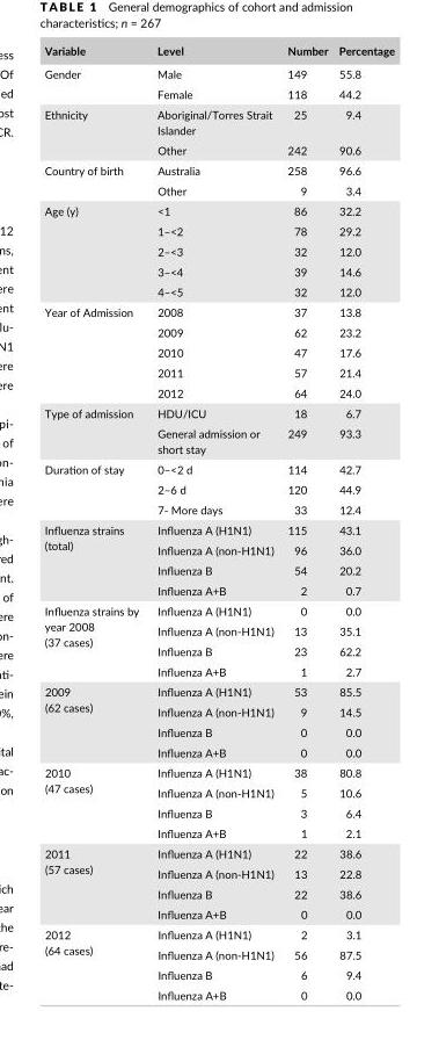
<table><thead><tr><td>Variable</td><td>Level</td><td>Number</td><td>Percentage</td></tr></thead><tbody><tr><td rowspan="2">Gender</td><td>Male</td><td>149</td><td>55.8</td></tr><tr><td>Female</td><td>118</td><td>44.2</td></tr><tr><td rowspan="2">Ethnicity</td><td>Aboriginal/Torres Strait Islander</td><td>25</td><td>9.4</td></tr><tr><td>Other</td><td>242</td><td>90.6</td></tr><tr><td rowspan="2">Country of birth</td><td>Australia</td><td>258</td><td>96.6</td></tr><tr><td>Other</td><td>9</td><td>3.4</td></tr><tr><td rowspan="5">Age (y)</td><td>&lt;1</td><td>86</td><td>32.2</td></tr><tr><td>1–&lt;2</td><td>78</td><td>29.2</td></tr><tr><td>2–&lt;3</td><td>32</td><td>12.0</td></tr><tr><td>3–&lt;4</td><td>39</td><td>14.6</td></tr><tr><td>4–&lt;5</td><td>32</td><td>12.0</td></tr><tr><td rowspan="5">Year of Admission</td><td>2008</td><td>37</td><td>13.8</td></tr><tr><td>2009</td><td>62</td><td>23.2</td></tr><tr><td>2010</td><td>47</td><td>17.6</td></tr><tr><td>2011</td><td>57</td><td>21.4</td></tr><tr><td>2012</td><td>64</td><td>24.0</td></tr><tr><td rowspan="2">Type of admission</td><td>HDU/ICU</td><td>18</td><td>6.7</td></tr><tr><td>General admission or short stay</td><td>249</td><td>93.3</td></tr><tr><td rowspan="3">Duration of stay</td><td>0–&lt;2 d</td><td>114</td><td>42.7</td></tr><tr><td>2–6 d</td><td>120</td><td>44.9</td></tr><tr><td>7- More days</td><td>33</td><td>12.4</td></tr><tr><td rowspan="4">Influenza strains (total)</td><td>Influenza A (H1N1)</td><td>115</td><td>43.1</td></tr><tr><td>Influenza A (non- H1N1)</td><td>96</td><td>36.0</td></tr><tr><td>Influenza B</td><td>54</td><td>20.2</td></tr><tr><td>Influenza A+B</td><td>2</td><td>0.7</td></tr><tr><td rowspan="4">Influenza strains by year 2008 (37 cases)</td><td>Influenza A (H1N1)</td><td>0</td><td>0.0</td></tr><tr><td>Influenza A (non- H1N1)</td><td>13</td><td>35.1</td></tr><tr><td>Influenza B</td><td>23</td><td>62.2</td></tr><tr><td>Influenza A+B</td><td>1</td><td>2.7</td></tr><tr><td rowspan="4">2009 (62 cases)</td><td>Influenza A (H1N1)</td><td>53</td><td>85.5</td></tr><tr><td>Influenza A (non- H1N1)</td><td>9</td><td>14.5</td></tr><tr><td>Influenza B</td><td>0</td><td>0.0</td></tr><tr><td>Influenza A+B</td><td>0</td><td>0.0</td></tr><tr><td rowspan="4">2010 (47 cases)</td><td>Influenza A (H1N1)</td><td>38</td><td>80.8</td></tr><tr><td>Influenza A (non- H1N1)</td><td>5</td><td>10.6</td></tr><tr><td>Influenza B</td><td>3</td><td>6.4</td></tr><tr><td>Influenza A+B</td><td>1</td><td>2.1</td></tr><tr><td rowspan="4">2011 (57 cases)</td><td>Influenza A (H1N1)</td><td>22</td><td>38.6</td></tr><tr><td>Influenza A (non- H1N1)</td><td>13</td><td>22.8</td></tr><tr><td>Influenza B</td><td>22</td><td>38.6</td></tr><tr><td>Influenza A+B</td><td>0</td><td>0.0</td></tr><tr><td rowspan="4">2012 (64 cases)</td><td>Influenza A (H1N1)</td><td>2</td><td>3.1</td></tr><tr><td>Influenza A (non- H1N1)</td><td>56</td><td>87.5</td></tr><tr><td>Influenza B</td><td>6</td><td>9.4</td></tr><tr><td>Influenza A+B</td><td>0</td><td>0.0</td></tr></tbody></table>